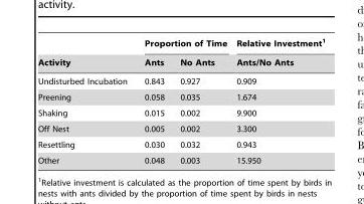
<table><thead><tr><td rowspan="2">Activity</td><td colspan="2">Proportion of Time</td><td rowspan="2">Relative Investment<sup>1</sup> Ants/No Ants</td></tr><tr><td>Ants</td><td>No Ants</td></tr></thead><tbody><tr><td>Undisturbed Incubation</td><td>0.843</td><td>0.927</td><td>0.909</td></tr><tr><td>Preening</td><td>0.058</td><td>0.035</td><td>1.674</td></tr><tr><td>Shaking</td><td>0.015</td><td>0.002</td><td>9.900</td></tr><tr><td>Off Nest</td><td>0.005</td><td>0.002</td><td>3.300</td></tr><tr><td>Resettling</td><td>0.030</td><td>0.032</td><td>0.943</td></tr><tr><td>Other</td><td>0.048</td><td>0.003</td><td>15.950</td></tr></tbody></table>